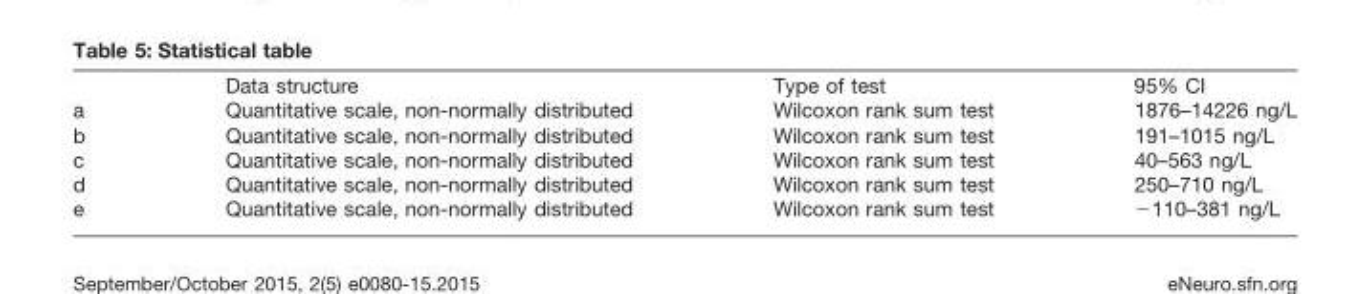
<table><thead><tr><td></td><td>Data structure</td><td>Type of test</td><td>95% CI</td></tr></thead><tbody><tr><td>a</td><td>Quantitative scale, non-normally distributed</td><td>Wilcoxon rank sum test</td><td>1876–14226 ng/L</td></tr><tr><td>b</td><td>Quantitative scale, non-normally distributed</td><td>Wilcoxon rank sum test</td><td>191–1015 ng/L</td></tr><tr><td>c</td><td>Quantitative scale, non-normally distributed</td><td>Wilcoxon rank sum test</td><td>40–563 ng/L</td></tr><tr><td>d</td><td>Quantitative scale, non-normally distributed</td><td>Wilcoxon rank sum test</td><td>250–710 ng/L</td></tr><tr><td>e</td><td>Quantitative scale, non-normally distributed</td><td>Wilcoxon rank sum test</td><td>−110–381 ng/L</td></tr></tbody></table>